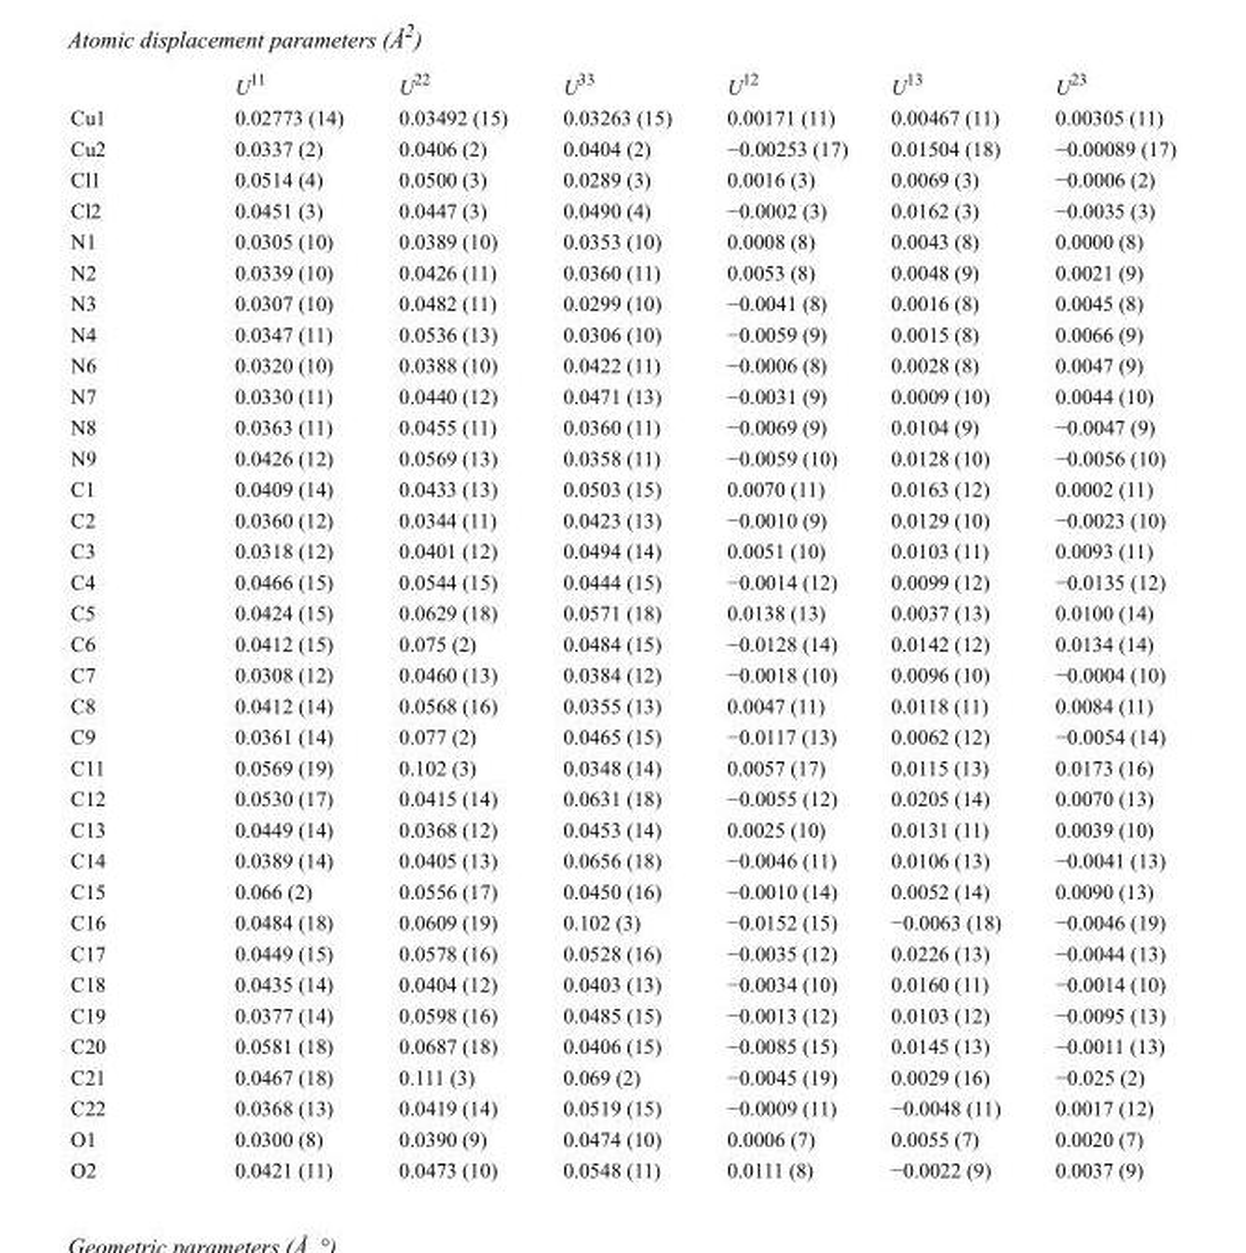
<table><thead><tr><td></td><td>U<sup>11</sup></td><td>U<sup>22</sup></td><td>U<sup>33</sup></td><td>U<sup>12</sup></td><td>U<sup>13</sup></td><td>U<sup>23</sup></td></tr></thead><tbody><tr><td>Cu1</td><td>0.02773 (14)</td><td>0.03492 (15)</td><td>0.03263 (15)</td><td>0.00171 (11)</td><td>0.00467 (11)</td><td>0.00305 (11)</td></tr><tr><td>Cu2</td><td>0.0337 (2)</td><td>0.0406 (2)</td><td>0.0404 (2)</td><td>−0.00253 (17)</td><td>0.01504 (18)</td><td>−0.00089 (17)</td></tr><tr><td>Cl1</td><td>0.0514 (4)</td><td>0.0500 (3)</td><td>0.0289 (3)</td><td>0.0016 (3)</td><td>0.0069 (3)</td><td>−0.0006 (2)</td></tr><tr><td>Cl2</td><td>0.0451 (3)</td><td>0.0447 (3)</td><td>0.0490 (4)</td><td>−0.0002 (3)</td><td>0.0162 (3)</td><td>−0.0035 (3)</td></tr><tr><td>N1</td><td>0.0305 (10)</td><td>0.0389 (10)</td><td>0.0353 (10)</td><td>0.0008 (8)</td><td>0.0043 (8)</td><td>0.0000 (8)</td></tr><tr><td>N2</td><td>0.0339 (10)</td><td>0.0426 (11)</td><td>0.0360 (11)</td><td>0.0053 (8)</td><td>0.0048 (9)</td><td>0.0021 (9)</td></tr><tr><td>N3</td><td>0.0307 (10)</td><td>0.0482 (11)</td><td>0.0299 (10)</td><td>−0.0041 (8)</td><td>0.0016 (8)</td><td>0.0045 (8)</td></tr><tr><td>N4</td><td>0.0347 (11)</td><td>0.0536 (13)</td><td>0.0306 (10)</td><td>−0.0059 (9)</td><td>0.0015 (8)</td><td>0.0066 (9)</td></tr><tr><td>N6</td><td>0.0320 (10)</td><td>0.0388 (10)</td><td>0.0422 (11)</td><td>−0.0006 (8)</td><td>0.0028 (8)</td><td>0.0047 (9)</td></tr><tr><td>N7</td><td>0.0330 (11)</td><td>0.0440 (12)</td><td>0.0471 (13)</td><td>−0.0031 (9)</td><td>0.0009 (10)</td><td>0.0044 (10)</td></tr><tr><td>N8</td><td>0.0363 (11)</td><td>0.0455 (11)</td><td>0.0360 (11)</td><td>−0.0069 (9)</td><td>0.0104 (9)</td><td>−0.0047 (9)</td></tr><tr><td>N9</td><td>0.0426 (12)</td><td>0.0569 (13)</td><td>0.0358 (11)</td><td>−0.0059 (10)</td><td>0.0128 (10)</td><td>−0.0056 (10)</td></tr><tr><td>C1</td><td>0.0409 (14)</td><td>0.0433 (13)</td><td>0.0503 (15)</td><td>0.0070 (11)</td><td>0.0163 (12)</td><td>0.0002 (11)</td></tr><tr><td>C2</td><td>0.0360 (12)</td><td>0.0344 (11)</td><td>0.0423 (13)</td><td>−0.0010 (9)</td><td>0.0129 (10)</td><td>−0.0023 (10)</td></tr><tr><td>C3</td><td>0.0318 (12)</td><td>0.0401 (12)</td><td>0.0494 (14)</td><td>0.0051 (10)</td><td>0.0103 (11)</td><td>0.0093 (11)</td></tr><tr><td>C4</td><td>0.0466 (15)</td><td>0.0544 (15)</td><td>0.0444 (15)</td><td>−0.0014 (12)</td><td>0.0099 (12)</td><td>−0.0135 (12)</td></tr><tr><td>C5</td><td>0.0424 (15)</td><td>0.0629 (18)</td><td>0.0571 (18)</td><td>0.0138 (13)</td><td>0.0037 (13)</td><td>0.0100 (14)</td></tr><tr><td>C6</td><td>0.0412 (15)</td><td>0.075 (2)</td><td>0.0484 (15)</td><td>−0.0128 (14)</td><td>0.0142 (12)</td><td>0.0134 (14)</td></tr><tr><td>C7</td><td>0.0308 (12)</td><td>0.0460 (13)</td><td>0.0384 (12)</td><td>−0.0018 (10)</td><td>0.0096 (10)</td><td>−0.0004 (10)</td></tr><tr><td>C8</td><td>0.0412 (14)</td><td>0.0568 (16)</td><td>0.0355 (13)</td><td>0.0047 (11)</td><td>0.0118 (11)</td><td>0.0084 (11)</td></tr><tr><td>C9</td><td>0.0361 (14)</td><td>0.077 (2)</td><td>0.0465 (15)</td><td>−0.0117 (13)</td><td>0.0062 (12)</td><td>−0.0054 (14)</td></tr><tr><td>C11</td><td>0.0569 (19)</td><td>0.102 (3)</td><td>0.0348 (14)</td><td>0.0057 (17)</td><td>0.0115 (13)</td><td>0.0173 (16)</td></tr><tr><td>C12</td><td>0.0530 (17)</td><td>0.0415 (14)</td><td>0.0631 (18)</td><td>−0.0055 (12)</td><td>0.0205 (14)</td><td>0.0070 (13)</td></tr><tr><td>C13</td><td>0.0449 (14)</td><td>0.0368 (12)</td><td>0.0453 (14)</td><td>0.0025 (10)</td><td>0.0131 (11)</td><td>0.0039 (10)</td></tr><tr><td>C14</td><td>0.0389 (14)</td><td>0.0405 (13)</td><td>0.0656 (18)</td><td>−0.0046 (11)</td><td>0.0106 (13)</td><td>−0.0041 (13)</td></tr><tr><td>C15</td><td>0.066 (2)</td><td>0.0556 (17)</td><td>0.0450 (16)</td><td>−0.0010 (14)</td><td>0.0052 (14)</td><td>0.0090 (13)</td></tr><tr><td>C16</td><td>0.0484 (18)</td><td>0.0609 (19)</td><td>0.102 (3)</td><td>−0.0152 (15)</td><td>−0.0063 (18)</td><td>−0.0046 (19)</td></tr><tr><td>C17</td><td>0.0449 (15)</td><td>0.0578 (16)</td><td>0.0528 (16)</td><td>−0.0035 (12)</td><td>0.0226 (13)</td><td>−0.0044 (13)</td></tr><tr><td>C18</td><td>0.0435 (14)</td><td>0.0404 (12)</td><td>0.0403 (13)</td><td>−0.0034 (10)</td><td>0.0160 (11)</td><td>−0.0014 (10)</td></tr><tr><td>C19</td><td>0.0377 (14)</td><td>0.0598 (16)</td><td>0.0485 (15)</td><td>−0.0013 (12)</td><td>0.0103 (12)</td><td>−0.0095 (13)</td></tr><tr><td>C20</td><td>0.0581 (18)</td><td>0.0687 (18)</td><td>0.0406 (15)</td><td>−0.0085 (15)</td><td>0.0145 (13)</td><td>−0.0011 (13)</td></tr><tr><td>C21</td><td>0.0467 (18)</td><td>0.111 (3)</td><td>0.069 (2)</td><td>−0.0045 (19)</td><td>0.0029 (16)</td><td>−0.025 (2)</td></tr><tr><td>C22</td><td>0.0368 (13)</td><td>0.0419 (14)</td><td>0.0519 (15)</td><td>−0.0009 (11)</td><td>−0.0048 (11)</td><td>0.0017 (12)</td></tr><tr><td>O1</td><td>0.0300 (8)</td><td>0.0390 (9)</td><td>0.0474 (10)</td><td>0.0006 (7)</td><td>0.0055 (7)</td><td>0.0020 (7)</td></tr><tr><td>O2</td><td>0.0421 (11)</td><td>0.0473 (10)</td><td>0.0548 (11)</td><td>0.0111 (8)</td><td>−0.0022 (9)</td><td>0.0037 (9)</td></tr></tbody></table>